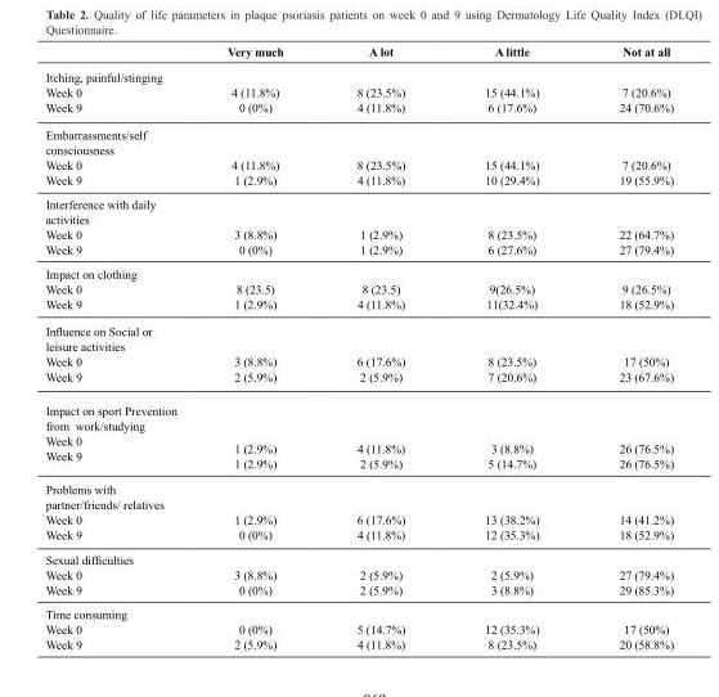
<table><thead><tr><td></td><td>Very much</td><td>A lot</td><td>A little</td><td>Not at all</td></tr></thead><tbody><tr><td colspan="5">Itching, painful/stinging</td></tr><tr><td>Week 0 Week 9</td><td>4 (11.8%) 0 (0%)</td><td>8 (23.5%) 4 (11.8%)</td><td>15 (44.1%) 6 (17.6%)</td><td>7 (20.6%) 24 (70.6%)</td></tr><tr><td colspan="5">Embarrassments/self consciousness</td></tr><tr><td>Week 0 Week 9</td><td>4 (11.8%) 1 (2.9%)</td><td>8 (23.5%) 4 (11.8%)</td><td>15 (44.1%) 10 (29.4%)</td><td>7 (20.6%) 19 (55.9%)</td></tr><tr><td colspan="5">Interference with daily activities</td></tr><tr><td>Week 0 Week 9</td><td>3 (8.8%) 0 (0%)</td><td>1 (2.9%) 1 (2.9%)</td><td>8 (23.5%) 6 (27.6%)</td><td>22 (64.7%) 27 (79.4%)</td></tr><tr><td colspan="5">Impact on clothing</td></tr><tr><td>Week 0 Week 9</td><td>8 (23.5) 1 (2.9%)</td><td>8 (23.5) 4 (11.8%)</td><td>9(26.5%) 11(32.4%)</td><td>9 (26.5%) 18 (52.9%)</td></tr><tr><td colspan="5">Influence on Social or leisure activities</td></tr><tr><td>Week 0 Week 9</td><td>3 (8.8%) 2 (5.9%)</td><td>6 (17.6%) 2 (5.9%)</td><td>8 (23.5%) 7 (20.6%)</td><td>17 (50%) 23 (67.6%)</td></tr><tr><td colspan="5">Impact on sport Prevention from work/studying</td></tr><tr><td>Week 0 Week 9</td><td>1 (2.9%) 1 (2.9%)</td><td>4 (11.8%) 2 (5.9%)</td><td>3 (8.8%) 5 (14.7%)</td><td>26 (76.5%) 26 (76.5%)</td></tr><tr><td colspan="5">Problems with partner/friends/ relatives</td></tr><tr><td>Week 0 Week 9</td><td>1 (2.9%) 0 (0%)</td><td>6 (17.6%) 4 (11.8%)</td><td>13 (38.2%) 12 (35.3%)</td><td>14 (41.2%) 18 (52.9%)</td></tr><tr><td colspan="5">Sexual difficulties</td></tr><tr><td>Week 0 Week 9</td><td>3 (8.8%) 0 (0%)</td><td>2 (5.9%) 2 (5.9%)</td><td>2 (5.9%) 3 (8.8%)</td><td>27 (79.4%) 29 (85.3%)</td></tr><tr><td colspan="5">Time consuming</td></tr><tr><td>Week 0 Week 9</td><td>0 (0%) 2 (5.9%)</td><td>5 (14.7%) 4 (11.8%)</td><td>12 (35.3%) 8 (23.5%)</td><td>17 (50%) 20 (58.8%)</td></tr></tbody></table>